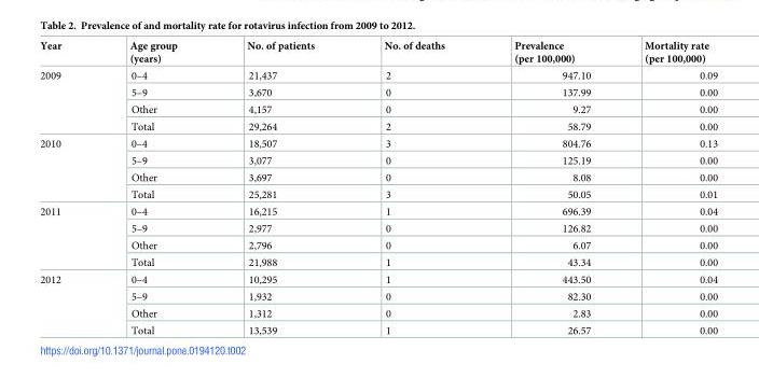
<table><thead><tr><td>Year</td><td>Age group (years)</td><td>No. of patients</td><td>No. of deaths</td><td>Prevalence (per 100,000)</td><td>Mortality rate (per 100,000)</td></tr></thead><tbody><tr><td rowspan="4">2009</td><td>0–4</td><td>21,437</td><td>2</td><td>947.10</td><td>0.09</td></tr><tr><td>5–9</td><td>3,670</td><td>0</td><td>137.99</td><td>0.00</td></tr><tr><td>Other</td><td>4,157</td><td>0</td><td>9.27</td><td>0.00</td></tr><tr><td>Total</td><td>29,264</td><td>2</td><td>58.79</td><td>0.00</td></tr><tr><td rowspan="4">2010</td><td>0–4</td><td>18,507</td><td>3</td><td>804.76</td><td>0.13</td></tr><tr><td>5–9</td><td>3,077</td><td>0</td><td>125.19</td><td>0.00</td></tr><tr><td>Other</td><td>3,697</td><td>0</td><td>8.08</td><td>0.00</td></tr><tr><td>Total</td><td>25,281</td><td>3</td><td>50.05</td><td>0.01</td></tr><tr><td rowspan="4">2011</td><td>0–4</td><td>16,215</td><td>1</td><td>696.39</td><td>0.04</td></tr><tr><td>5–9</td><td>2,977</td><td>0</td><td>126.82</td><td>0.00</td></tr><tr><td>Other</td><td>2,796</td><td>0</td><td>6.07</td><td>0.00</td></tr><tr><td>Total</td><td>21,988</td><td>1</td><td>43.34</td><td>0.00</td></tr><tr><td rowspan="4">2012</td><td>0–4</td><td>10,295</td><td>1</td><td>443.50</td><td>0.04</td></tr><tr><td>5–9</td><td>1,932</td><td>0</td><td>82.30</td><td>0.00</td></tr><tr><td>Other</td><td>1,312</td><td>0</td><td>2.83</td><td>0.00</td></tr><tr><td>Total</td><td>13,539</td><td>1</td><td>26.57</td><td>0.00</td></tr></tbody></table>